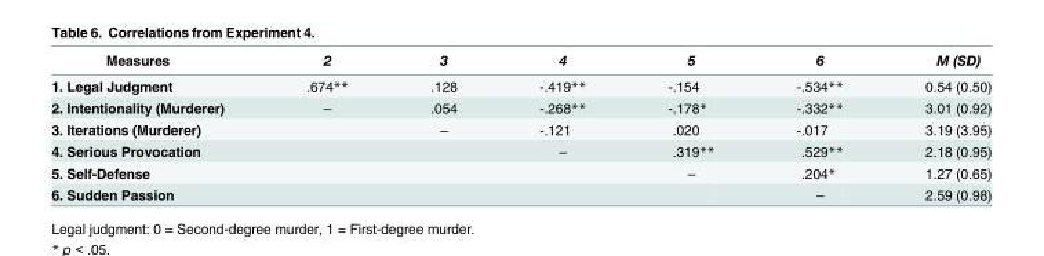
<table><thead><tr><td>Measures</td><td>2</td><td>3</td><td>4</td><td>5</td><td>6</td><td>M (SD)</td></tr></thead><tbody><tr><td>1. Legal Judgment</td><td>.674**</td><td>.128</td><td>-.419**</td><td>-.154</td><td>-.534**</td><td>0.54 (0.50)</td></tr><tr><td>2. Intentionality (Murderer)</td><td>–</td><td>.054</td><td>-.268**</td><td>-.178*</td><td>-.332**</td><td>3.01 (0.92)</td></tr><tr><td>3. Iterations (Murderer)</td><td></td><td>–</td><td>-.121</td><td>.020</td><td>-.017</td><td>3.19 (3.95)</td></tr><tr><td>4. Serious Provocation</td><td></td><td></td><td>–</td><td>.319**</td><td>.529**</td><td>2.18 (0.95)</td></tr><tr><td>5. Self-Defense</td><td></td><td></td><td></td><td>–</td><td>.204*</td><td>1.27 (0.65)</td></tr><tr><td>6. Sudden Passion</td><td></td><td></td><td></td><td></td><td>–</td><td>2.59 (0.98)</td></tr></tbody></table>